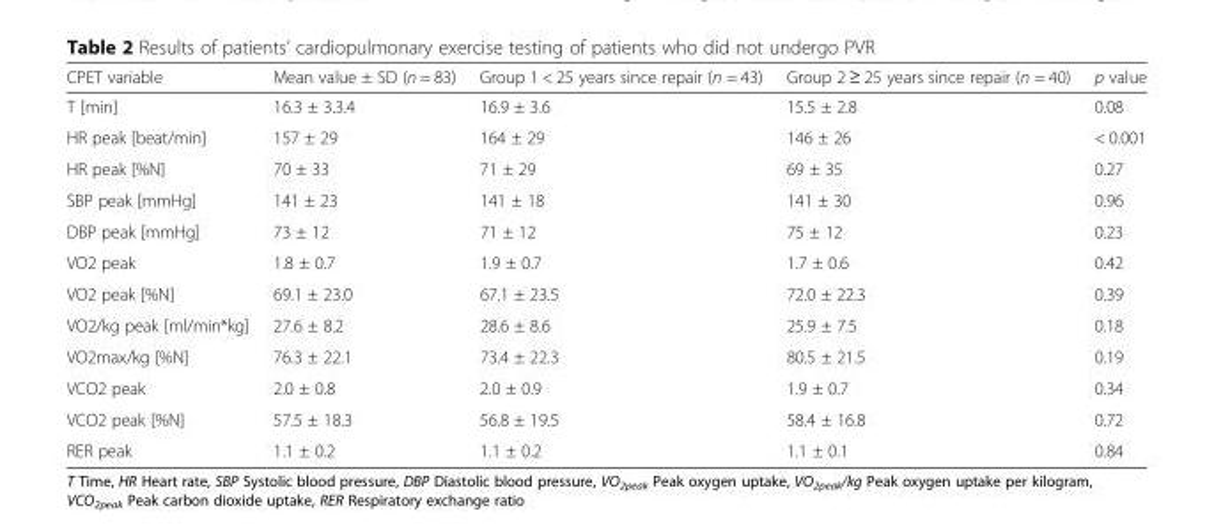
<table><thead><tr><td>CPET variable</td><td>Mean value ± SD (n = 83)</td><td>Group 1 &lt; 25 years since repair (n = 43)</td><td>Group 2 ≥ 25 years since repair (n = 40)</td><td>p value</td></tr></thead><tbody><tr><td>T [min]</td><td>16.3 ± 3.3.4</td><td>16.9 ± 3.6</td><td>15.5 ± 2.8</td><td>0.08</td></tr><tr><td>HR peak [beat/min]</td><td>157 ± 29</td><td>164 ± 29</td><td>146 ± 26</td><td>&lt; 0.001</td></tr><tr><td>HR peak [%N]</td><td>70 ± 33</td><td>71 ± 29</td><td>69 ± 35</td><td>0.27</td></tr><tr><td>SBP peak [mmHg]</td><td>141 ± 23</td><td>141 ± 18</td><td>141 ± 30</td><td>0.96</td></tr><tr><td>DBP peak [mmHg]</td><td>73 ± 12</td><td>71 ± 12</td><td>75 ± 12</td><td>0.23</td></tr><tr><td>VO2 peak</td><td>1.8 ± 0.7</td><td>1.9 ± 0.7</td><td>1.7 ± 0.6</td><td>0.42</td></tr><tr><td>VO2 peak [%N]</td><td>69.1 ± 23.0</td><td>67.1 ± 23.5</td><td>72.0 ± 22.3</td><td>0.39</td></tr><tr><td>VO2/kg peak [ml/min*kg]</td><td>27.6 ± 8.2</td><td>28.6 ± 8.6</td><td>25.9 ± 7.5</td><td>0.18</td></tr><tr><td>VO2max/kg [%N]</td><td>76.3 ± 22.1</td><td>73.4 ± 22.3</td><td>80.5 ± 21.5</td><td>0.19</td></tr><tr><td>VCO2 peak</td><td>2.0 ± 0.8</td><td>2.0 ± 0.9</td><td>1.9 ± 0.7</td><td>0.34</td></tr><tr><td>VCO2 peak [%N]</td><td>57.5 ± 18.3</td><td>56.8 ± 19.5</td><td>58.4 ± 16.8</td><td>0.72</td></tr><tr><td>RER peak</td><td>1.1 ± 0.2</td><td>1.1 ± 0.2</td><td>1.1 ± 0.1</td><td>0.84</td></tr></tbody></table>